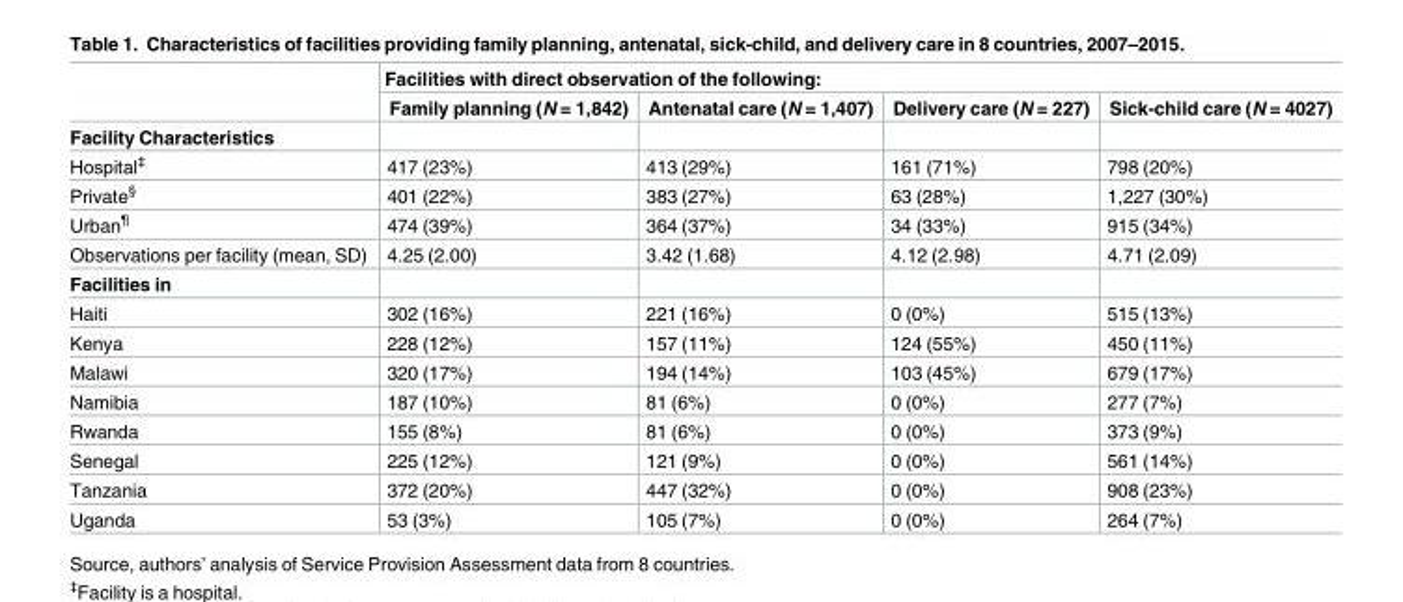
<table><thead><tr><td rowspan="2"></td><td colspan="4">Facilities with direct observation of the following:</td></tr><tr><td>Family planning (N = 1,842)</td><td>Antenatal care (N = 1,407)</td><td>Delivery care (N = 227)</td><td>Sick-child care (N = 4027)</td></tr></thead><tbody><tr><td colspan="5">Facility Characteristics</td></tr><tr><td>Hospital<sup>‡</sup></td><td>417 (23%)</td><td>413 (29%)</td><td>161 (71%)</td><td>798 (20%)</td></tr><tr><td>Private<sup>§</sup></td><td>401 (22%)</td><td>383 (27%)</td><td>63 (28%)</td><td>1,227 (30%)</td></tr><tr><td>Urban<sup>¶</sup></td><td>474 (39%)</td><td>364 (37%)</td><td>34 (33%)</td><td>915 (34%)</td></tr><tr><td>Observations per facility (mean, SD)</td><td>4.25 (2.00)</td><td>3.42 (1.68)</td><td>4.12 (2.98)</td><td>4.71 (2.09)</td></tr><tr><td colspan="5">Facilities in</td></tr><tr><td>Haiti</td><td>302 (16%)</td><td>221 (16%)</td><td>0 (0%)</td><td>515 (13%)</td></tr><tr><td>Kenya</td><td>228 (12%)</td><td>157 (11%)</td><td>124 (55%)</td><td>450 (11%)</td></tr><tr><td>Malawi</td><td>320 (17%)</td><td>194 (14%)</td><td>103 (45%)</td><td>679 (17%)</td></tr><tr><td>Namibia</td><td>187 (10%)</td><td>81 (6%)</td><td>0 (0%)</td><td>277 (7%)</td></tr><tr><td>Rwanda</td><td>155 (8%)</td><td>81 (6%)</td><td>0 (0%)</td><td>373 (9%)</td></tr><tr><td>Senegal</td><td>225 (12%)</td><td>121 (9%)</td><td>0 (0%)</td><td>561 (14%)</td></tr><tr><td>Tanzania</td><td>372 (20%)</td><td>447 (32%)</td><td>0 (0%)</td><td>908 (23%)</td></tr><tr><td>Uganda</td><td>53 (3%)</td><td>105 (7%)</td><td>0 (0%)</td><td>264 (7%)</td></tr></tbody></table>